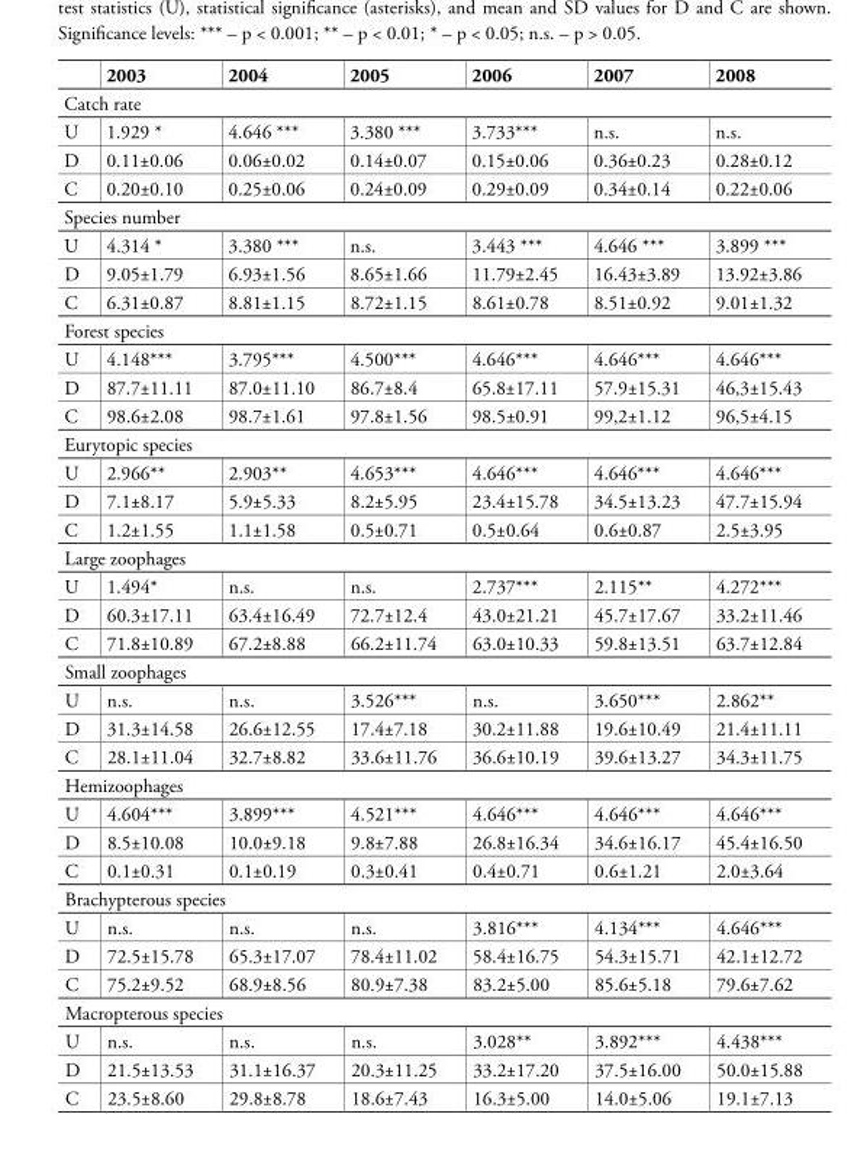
<table><thead><tr><td></td><td>2003</td><td>2004</td><td>2005</td><td>2006</td><td>2007</td><td>2008</td></tr></thead><tbody><tr><td colspan="7">Catch rate</td></tr><tr><td>U</td><td>1.929 *</td><td>4.646 ***</td><td>3.380 ***</td><td>3.733***</td><td>n.s.</td><td>n.s.</td></tr><tr><td>D</td><td>0.11±0.06</td><td>0.06±0.02</td><td>0.14±0.07</td><td>0.15±0.06</td><td>0.36±0.23</td><td>0.28±0.12</td></tr><tr><td>C</td><td>0.20±0.10</td><td>0.25±0.06</td><td>0.24±0.09</td><td>0.29±0.09</td><td>0.34±0.14</td><td>0.22±0.06</td></tr><tr><td colspan="7">Species number</td></tr><tr><td>U</td><td>4.314 *</td><td>3.380 ***</td><td>n.s.</td><td>3.443 ***</td><td>4.646 ***</td><td>3.899 ***</td></tr><tr><td>D</td><td>9.05±1.79</td><td>6.93±1.56</td><td>8.65±1.66</td><td>11.79±2.45</td><td>16.43±3.89</td><td>13.92±3.86</td></tr><tr><td>C</td><td>6.31±0.87</td><td>8.81±1.15</td><td>8.72±1.15</td><td>8.61±0.78</td><td>8.51±0.92</td><td>9.01±1.32</td></tr><tr><td colspan="7">Forest species</td></tr><tr><td>U</td><td>4.148***</td><td>3.795***</td><td>4.500***</td><td>4.646***</td><td>4.646***</td><td>4.646***</td></tr><tr><td>D</td><td>87.7±11.11</td><td>87.0±11.10</td><td>86.7±8.4</td><td>65.8±17.11</td><td>57.9±15.31</td><td>46,3±15.43</td></tr><tr><td>C</td><td>98.6±2.08</td><td>98.7±1.61</td><td>97.8±1.56</td><td>98.5±0.91</td><td>99,2±1.12</td><td>96,5±4.15</td></tr><tr><td colspan="7">Eurytopic species</td></tr><tr><td>U</td><td>2.966**</td><td>2.903**</td><td>4.653***</td><td>4.646***</td><td>4.646***</td><td>4.646***</td></tr><tr><td>D</td><td>7.1±8.17</td><td>5.9±5.33</td><td>8.2±5.95</td><td>23.4±15.78</td><td>34.5±13.23</td><td>47.7±15.94</td></tr><tr><td>C</td><td>1.2±1.55</td><td>1.1±1.58</td><td>0.5±0.71</td><td>0.5±0.64</td><td>0.6±0.87</td><td>2.5±3.95</td></tr><tr><td colspan="7">Large zoophages</td></tr><tr><td>U</td><td>1.494*</td><td>n.s.</td><td>n.s.</td><td>2.737***</td><td>2.115**</td><td>4.272***</td></tr><tr><td>D</td><td>60.3±17.11</td><td>63.4±16.49</td><td>72.7±12.4</td><td>43.0±21.21</td><td>45.7±17.67</td><td>33.2±11.46</td></tr><tr><td>C</td><td>71.8±10.89</td><td>67.2±8.88</td><td>66.2±11.74</td><td>63.0±10.33</td><td>59.8±13.51</td><td>63.7±12.84</td></tr><tr><td colspan="7">Small zoophages</td></tr><tr><td>U</td><td>n.s.</td><td>n.s.</td><td>3.526***</td><td>n.s.</td><td>3.650***</td><td>2.862**</td></tr><tr><td>D</td><td>31.3±14.58</td><td>26.6±12.55</td><td>17.4±7.18</td><td>30.2±11.88</td><td>19.6±10.49</td><td>21.4±11.11</td></tr><tr><td>C</td><td>28.1±11.04</td><td>32.7±8.82</td><td>33.6±11.76</td><td>36.6±10.19</td><td>39.6±13.27</td><td>34.3±11.75</td></tr><tr><td colspan="7">Hemizoophages</td></tr><tr><td>U</td><td>4.604***</td><td>3.899***</td><td>4.521***</td><td>4.646***</td><td>4.646***</td><td>4.646***</td></tr><tr><td>D</td><td>8.5±10.08</td><td>10.0±9.18</td><td>9.8±7.88</td><td>26.8±16.34</td><td>34.6±16.17</td><td>45.4±16.50</td></tr><tr><td>C</td><td>0.1±0.31</td><td>0.1±0.19</td><td>0.3±0.41</td><td>0.4±0.71</td><td>0.6±1.21</td><td>2.0±3.64</td></tr><tr><td colspan="7">Brachypterous species</td></tr><tr><td>U</td><td>n.s.</td><td>n.s.</td><td>n.s.</td><td>3.816***</td><td>4.134***</td><td>4.646***</td></tr><tr><td>D</td><td>72.5±15.78</td><td>65.3±17.07</td><td>78.4±11.02</td><td>58.4±16.75</td><td>54.3±15.71</td><td>42.1±12.72</td></tr><tr><td>C</td><td>75.2±9.52</td><td>68.9±8.56</td><td>80.9±7.38</td><td>83.2±5.00</td><td>85.6±5.18</td><td>79.6±7.62</td></tr><tr><td colspan="7">Macropterous species</td></tr><tr><td>U</td><td>n.s.</td><td>n.s.</td><td>n.s.</td><td>3.028**</td><td>3.892***</td><td>4.438***</td></tr><tr><td>D</td><td>21.5±13.53</td><td>31.1±16.37</td><td>20.3±11.25</td><td>33.2±17.20</td><td>37.5±16.00</td><td>50.0±15.88</td></tr><tr><td>C</td><td>23.5±8.60</td><td>29.8±8.78</td><td>18.6±7.43</td><td>16.3±5.00</td><td>14.0±5.06</td><td>19.1±7.13</td></tr></tbody></table>